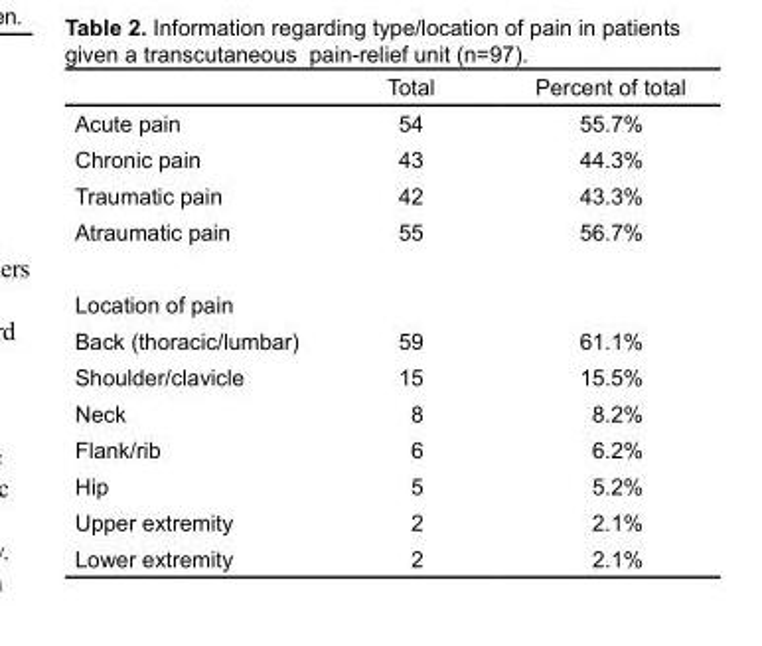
<table><thead><tr><td></td><td>Total</td><td>Percent of total</td></tr></thead><tbody><tr><td>Acute pain</td><td>54</td><td>55.7%</td></tr><tr><td>Chronic pain</td><td>43</td><td>44.3%</td></tr><tr><td>Traumatic pain</td><td>42</td><td>43.3%</td></tr><tr><td>Atraumatic pain</td><td>55</td><td>56.7%</td></tr><tr><td colspan="3">Location of pain</td></tr><tr><td>Back (thoracic/lumbar)</td><td>59</td><td>61.1%</td></tr><tr><td>Shoulder/clavicle</td><td>15</td><td>15.5%</td></tr><tr><td>Neck</td><td>8</td><td>8.2%</td></tr><tr><td>Flank/rib</td><td>6</td><td>6.2%</td></tr><tr><td>Hip</td><td>5</td><td>5.2%</td></tr><tr><td>Upper extremity</td><td>2</td><td>2.1%</td></tr><tr><td>Lower extremity</td><td>2</td><td>2.1%</td></tr></tbody></table>